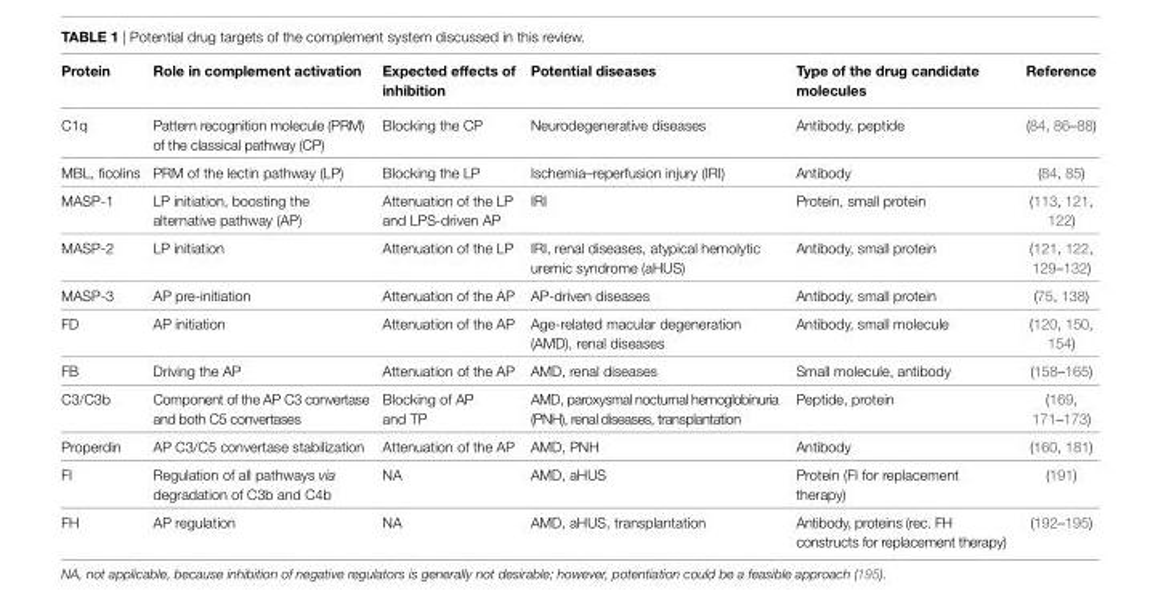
<table><thead><tr><td>Protein</td><td>Role in complement activation</td><td>expected effects of inhibition</td><td>Potential diseases</td><td>Type of the drug candidate molecules</td><td>Reference</td></tr></thead><tbody><tr><td>C1q</td><td>Pattern recognition molecule (PRM) of the classical pathway (CP)</td><td>Blocking the CP</td><td>Neurodegenerative diseases</td><td>Antibody, peptide</td><td>(84, 86–88)</td></tr><tr><td>MBL, ficolins</td><td>PRM of the lectin pathway (LP)</td><td>Blocking the LP</td><td>Ischemia–reperfusion injury (IRI)</td><td>Antibody</td><td>(84, 85)</td></tr><tr><td>MASP-1</td><td>LP initiation, boosting the alternative pathway (AP)</td><td>Attenuation of the LP and LPS-driven AP</td><td>IRI</td><td>Protein, small protein</td><td>(113, 121, 122)</td></tr><tr><td>MASP-2</td><td>LP initiation</td><td>Attenuation of the LP</td><td>IRI, renal diseases, atypical hemolytic uremic syndrome (aHUS)</td><td>Antibody, small protein</td><td>(121, 122, 129–132)</td></tr><tr><td>MASP-3</td><td>AP pre-initiation</td><td>Attenuation of the AP</td><td>AP-driven diseases</td><td>Antibody, small protein</td><td>(75, 138)</td></tr><tr><td>FD</td><td>AP initiation</td><td>Attenuation of the AP</td><td>Age-related macular degeneration (AMD), renal diseases</td><td>Antibody, small molecule</td><td>(120, 150, 154)</td></tr><tr><td>FB</td><td>Driving the AP</td><td>Attenuation of the AP</td><td>AMD, renal diseases</td><td>Small molecule, antibody</td><td>(158–165)</td></tr><tr><td>C3/C3b</td><td>Component of the AP C3 convertase and both C5 convertases</td><td>Blocking of AP and TP</td><td>AMD, paroxysmal nocturnal hemoglobinuria (PNH), renal diseases, transplantation</td><td>Peptide, protein</td><td>(169, 171–173)</td></tr><tr><td>Properdin</td><td>AP C3/C5 convertase stabilization</td><td>Attenuation of the AP</td><td>AMD, PNH</td><td>Antibody</td><td>(160, 181)</td></tr><tr><td>FI</td><td>Regulation of all pathways via degradation of C3b and C4b</td><td>NA</td><td>AMD, aHUS</td><td>Protein (FI for replacement therapy)</td><td>(191)</td></tr><tr><td>FH</td><td>AP regulation</td><td>NA</td><td>AMD, aHUS, transplantation</td><td>Antibody, proteins (rec. FH constructs for replacement therapy)</td><td>(192–195)</td></tr></tbody></table>